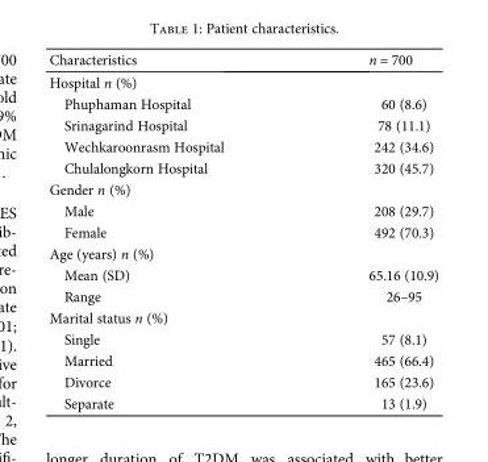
<table><thead><tr><td>Characteristics</td><td>n = 700</td></tr></thead><tbody><tr><td colspan="2">Hospital n (%)</td></tr><tr><td>Phuphaman Hospital</td><td>60 (8.6)</td></tr><tr><td>Srinagarind Hospital</td><td>78 (11.1)</td></tr><tr><td>Wechkaroonrasm Hospital</td><td>242 (34.6)</td></tr><tr><td>Chulalongkorn Hospital</td><td>320 (45.7)</td></tr><tr><td colspan="2">Gender n (%)</td></tr><tr><td>Male</td><td>208 (29.7)</td></tr><tr><td>Female</td><td>492 (70.3)</td></tr><tr><td colspan="2">Age (years) n (%)</td></tr><tr><td>Mean (SD)</td><td>65.16 (10.9)</td></tr><tr><td>Range</td><td>26–95</td></tr><tr><td colspan="2">Marital status n (%)</td></tr><tr><td>Single</td><td>57 (8.1)</td></tr><tr><td>Married</td><td>465 (66.4)</td></tr><tr><td>Divorce</td><td>165 (23.6)</td></tr><tr><td>Separate</td><td>13 (1.9)</td></tr></tbody></table>